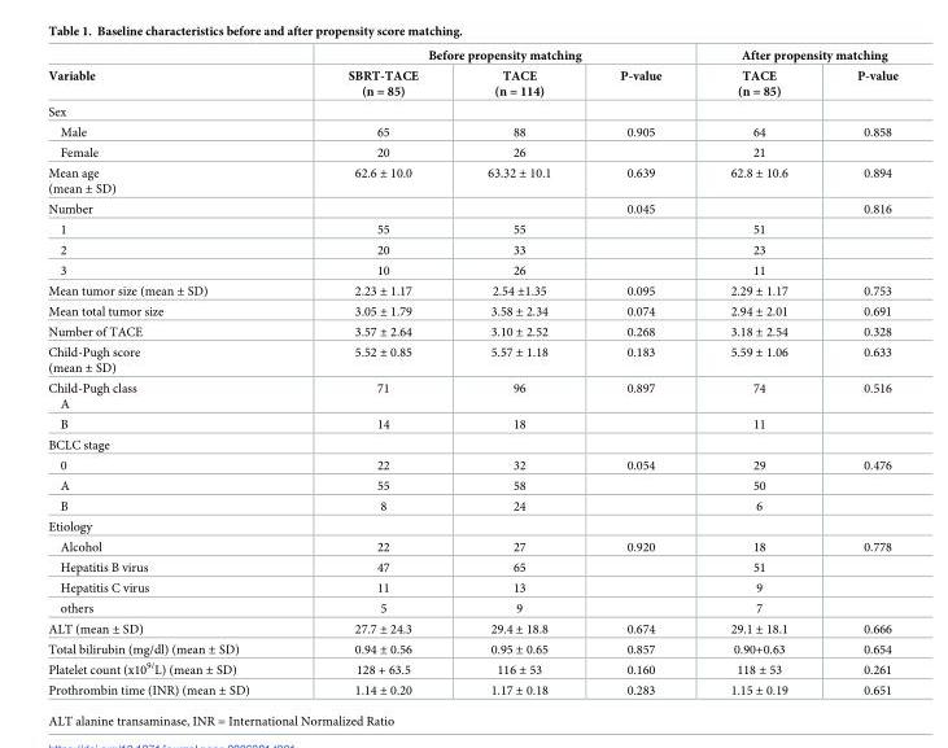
<table><thead><tr><td rowspan="2">Variable</td><td colspan="3">Before propensity matching</td><td colspan="2">After propensity matching</td></tr><tr><td>SBRT-TACE (n = 85)</td><td>TACE (n = 114)</td><td>P-value</td><td>TACE (n = 85)</td><td>P-value</td></tr></thead><tbody><tr><td colspan="6">Sex</td></tr><tr><td>Male</td><td>65</td><td>88</td><td>0.905</td><td>64</td><td>0.858</td></tr><tr><td>Female</td><td>20</td><td>26</td><td></td><td>21</td><td></td></tr><tr><td>Mean age (mean ± SD)</td><td>62.6 ± 10.0</td><td>63.32 ± 10.1</td><td>0.639</td><td>62.8 ± 10.6</td><td>0.894</td></tr><tr><td>Number</td><td></td><td></td><td>0.045</td><td></td><td>0.816</td></tr><tr><td>1</td><td>55</td><td>55</td><td></td><td>51</td><td></td></tr><tr><td>2</td><td>20</td><td>33</td><td></td><td>23</td><td></td></tr><tr><td>3</td><td>10</td><td>26</td><td></td><td>11</td><td></td></tr><tr><td>Mean tumor size (mean ± SD)</td><td>2.23 ± 1.17</td><td>2.54 ±1.35</td><td>0.095</td><td>2.29 ± 1.17</td><td>0.753</td></tr><tr><td>Mean total tumor size</td><td>3.05 ± 1.79</td><td>3.58 ± 2.34</td><td>0.074</td><td>2.94 ± 2.01</td><td>0.691</td></tr><tr><td>Number of TACE</td><td>3.57 ± 2.64</td><td>3.10 ± 2.52</td><td>0.268</td><td>3.18 ± 2.54</td><td>0.328</td></tr><tr><td>Child-Pugh score (mean ± SD)</td><td>5.52 ± 0.85</td><td>5.57 ± 1.18</td><td>0.183</td><td>5.59 ± 1.06</td><td>0.633</td></tr><tr><td>Child-Pugh class A</td><td>71</td><td>96</td><td>0.897</td><td>74</td><td>0.516</td></tr><tr><td>B</td><td>14</td><td>18</td><td></td><td>11</td><td></td></tr><tr><td colspan="6">BCLC stage</td></tr><tr><td>0</td><td>22</td><td>32</td><td>0.054</td><td>29</td><td>0.476</td></tr><tr><td>A</td><td>55</td><td>58</td><td></td><td>50</td><td></td></tr><tr><td>B</td><td>8</td><td>24</td><td></td><td>6</td><td></td></tr><tr><td colspan="6">Etiology</td></tr><tr><td>Alcohol</td><td>22</td><td>27</td><td>0.920</td><td>18</td><td>0.778</td></tr><tr><td>Hepatitis B virus</td><td>47</td><td>65</td><td></td><td>51</td><td></td></tr><tr><td>Hepatitis C virus</td><td>11</td><td>13</td><td></td><td>9</td><td></td></tr><tr><td>others</td><td>5</td><td>9</td><td></td><td>7</td><td></td></tr><tr><td>ALT (mean ± SD)</td><td>27.7 ± 24.3</td><td>29.4 ± 18.8</td><td>0.674</td><td>29.1 ± 18.1</td><td>0.666</td></tr><tr><td>Total bilirubin (mg/dl) (mean ± SD)</td><td>0.94 ± 0.56</td><td>0.95 ± 0.65</td><td>0.857</td><td>0.90+0.63</td><td>0.654</td></tr><tr><td>Platelet count (x10<sup>9/</sup>L) (mean ± SD)</td><td>128 + 63.5</td><td>116 ± 53</td><td>0.160</td><td>118 ± 53</td><td>0.261</td></tr><tr><td>Prothrombin time (INR) (mean ± SD)</td><td>1.14 ± 0.20</td><td>1.17 ± 0.18</td><td>0.283</td><td>1.15 ± 0.19</td><td>0.651</td></tr></tbody></table>